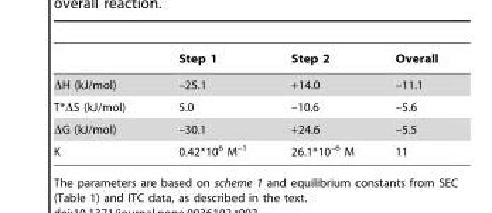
<table><thead><tr><td></td><td>Step 1</td><td>Step 2</td><td>Overall</td></tr></thead><tbody><tr><td>ΔH (kJ/mol)</td><td>–25.1</td><td>+14.0</td><td>–11.1</td></tr><tr><td>T*ΔS (kJ/mol)</td><td>5.0</td><td>–10.6</td><td>–5.6</td></tr><tr><td>ΔG (kJ/mol)</td><td>–30.1</td><td>+24.6</td><td>–5.5</td></tr><tr><td>K</td><td>0.42*10<sup>6</sup> M<sup>–1</sup></td><td>26.1*10<sup>–6</sup> M</td><td>11</td></tr></tbody></table>